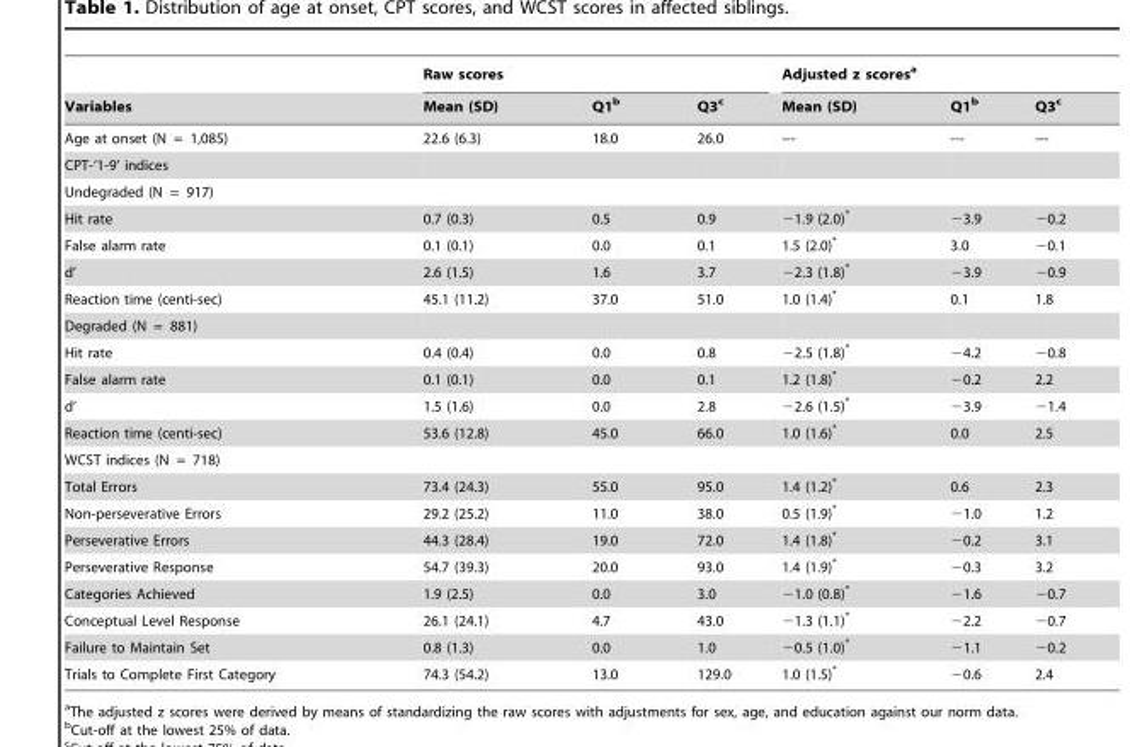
<table><thead><tr><td rowspan="2">Variables</td><td colspan="3">Raw scores</td><td colspan="3">Adjusted z scores<sup>a</sup></td></tr><tr><td>Mean (SD)</td><td>Q1<sup>b</sup></td><td>Q3<sup>c</sup></td><td>Mean (SD)</td><td>Q1<sup>b</sup></td><td>Q3<sup>c</sup></td></tr></thead><tbody><tr><td>Age at onset (N = 1,085)</td><td>22.6 (6.3)</td><td>18.0</td><td>26.0</td><td>---</td><td>---</td><td>---</td></tr><tr><td colspan="7">CPT-‘1-9’ indices</td></tr><tr><td colspan="7">Undegraded (N = 917)</td></tr><tr><td>Hit rate</td><td>0.7 (0.3)</td><td>0.5</td><td>0.9</td><td>−1.9 (2.0)*</td><td>−3.9</td><td>−0.2</td></tr><tr><td>False alarm rate</td><td>0.1 (0.1)</td><td>0.0</td><td>0.1</td><td>1.5 (2.0)*</td><td>3.0</td><td>−0.1</td></tr><tr><td>d’</td><td>2.6 (1.5)</td><td>1.6</td><td>3.7</td><td>−2.3 (1.8)*</td><td>−3.9</td><td>−0.9</td></tr><tr><td>Reaction time (centi-sec)</td><td>45.1 (11.2)</td><td>37.0</td><td>51.0</td><td>1.0 (1.4)*</td><td>0.1</td><td>1.8</td></tr><tr><td colspan="7">Degraded (N = 881)</td></tr><tr><td>Hit rate</td><td>0.4 (0.4)</td><td>0.0</td><td>0.8</td><td>−2.5 (1.8)*</td><td>−4.2</td><td>−0.8</td></tr><tr><td>False alarm rate</td><td>0.1 (0.1)</td><td>0.0</td><td>0.1</td><td>1.2 (1.8)*</td><td>−0.2</td><td>2.2</td></tr><tr><td>d’</td><td>1.5 (1.6)</td><td>0.0</td><td>2.8</td><td>−2.6 (1.5)*</td><td>−3.9</td><td>−1.4</td></tr><tr><td>Reaction time (centi-sec)</td><td>53.6 (12.8)</td><td>45.0</td><td>66.0</td><td>1.0 (1.6)*</td><td>0.0</td><td>2.5</td></tr><tr><td colspan="7">WCST indices (N = 718)</td></tr><tr><td>Total Errors</td><td>73.4 (24.3)</td><td>55.0</td><td>95.0</td><td>1.4 (1.2)*</td><td>0.6</td><td>2.3</td></tr><tr><td>Non-perseverative Errors</td><td>29.2 (25.2)</td><td>11.0</td><td>38.0</td><td>0.5 (1.9)*</td><td>−1.0</td><td>1.2</td></tr><tr><td>Perseverative Errors</td><td>44.3 (28.4)</td><td>19.0</td><td>72.0</td><td>1.4 (1.8)*</td><td>−0.2</td><td>3.1</td></tr><tr><td>Perseverative Response</td><td>54.7 (39.3)</td><td>20.0</td><td>93.0</td><td>1.4 (1.9)*</td><td>−0.3</td><td>3.2</td></tr><tr><td>Categories Achieved</td><td>1.9 (2.5)</td><td>0.0</td><td>3.0</td><td>−1.0 (0.8)*</td><td>−1.6</td><td>−0.7</td></tr><tr><td>Conceptual Level Response</td><td>26.1 (24.1)</td><td>4.7</td><td>43.0</td><td>−1.3 (1.1)*</td><td>−2.2</td><td>−0.7</td></tr><tr><td>Failure to Maintain Set</td><td>0.8 (1.3)</td><td>0.0</td><td>1.0</td><td>−0.5 (1.0)*</td><td>−1.1</td><td>−0.2</td></tr><tr><td>Trials to Complete First Category</td><td>74.3 (54.2)</td><td>13.0</td><td>129.0</td><td>1.0 (1.5)*</td><td>−0.6</td><td>2.4</td></tr></tbody></table>